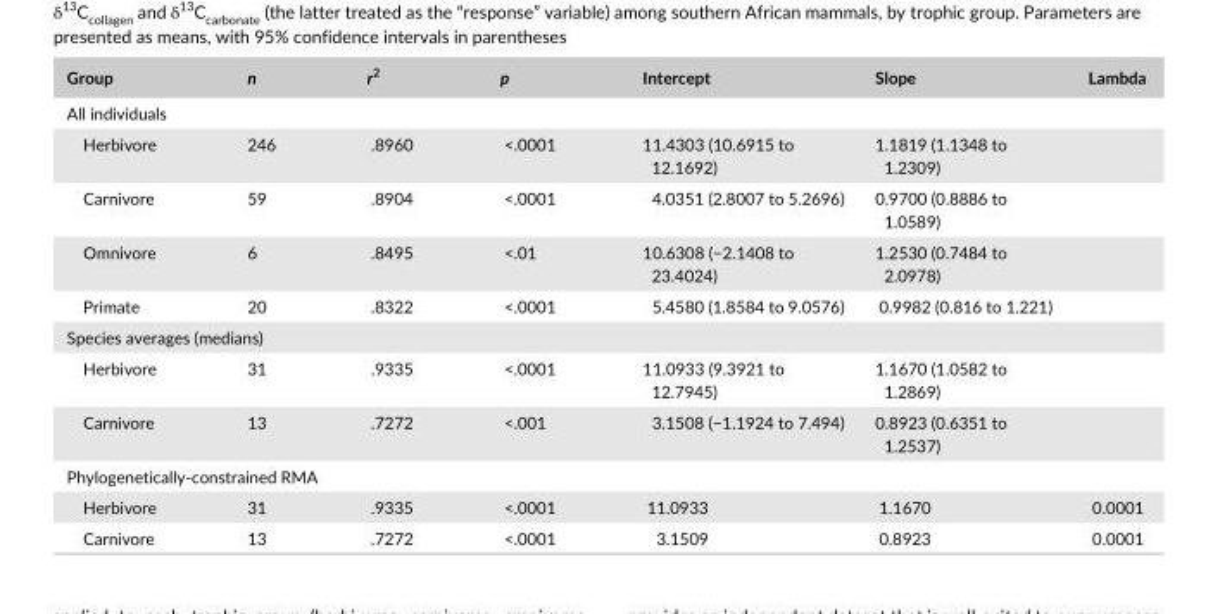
<table><thead><tr><td>Group</td><td>n</td><td>r<sup>2</sup></td><td>p</td><td>Intercept</td><td>Slope</td><td>Lambda</td></tr></thead><tbody><tr><td colspan="7">All individuals</td></tr><tr><td>Herbivore</td><td>246</td><td>.8960</td><td>&lt;.0001</td><td>11.4303 (10.6915 to 12.1692)</td><td>1.1819 (1.1348 to 1.2309)</td><td></td></tr><tr><td>Carnivore</td><td>59</td><td>.8904</td><td>&lt;.0001</td><td>4.0351 (2.8007 to 5.2696)</td><td>0.9700 (0.8886 to 1.0589)</td><td></td></tr><tr><td>Omnivore</td><td>6</td><td>.8495</td><td>&lt;.01</td><td>10.6308 (−2.1408 to 23.4024)</td><td>1.2530 (0.7484 to 2.0978)</td><td></td></tr><tr><td>Primate</td><td>20</td><td>.8322</td><td>&lt;.0001</td><td>5.4580 (1.8584 to 9.0576)</td><td>0.9982 (0.816 to 1.221)</td><td></td></tr><tr><td colspan="7">Species averages (medians)</td></tr><tr><td>Herbivore</td><td>31</td><td>.9335</td><td>&lt;.0001</td><td>11.0933 (9.3921 to 12.7945)</td><td>1.1670 (1.0582 to 1.2869)</td><td></td></tr><tr><td>Carnivore</td><td>13</td><td>.7272</td><td>&lt;.001</td><td>3.1508 (−1.1924 to 7.494)</td><td>0.8923 (0.6351 to 1.2537)</td><td></td></tr><tr><td colspan="7">Phylogenetically- constrained RMA</td></tr><tr><td>Herbivore</td><td>31</td><td>.9335</td><td>&lt;.0001</td><td>11.0933</td><td>1.1670</td><td>0.0001</td></tr><tr><td>Carnivore</td><td>13</td><td>.7272</td><td>&lt;.0001</td><td>3.1509</td><td>0.8923</td><td>0.0001</td></tr></tbody></table>